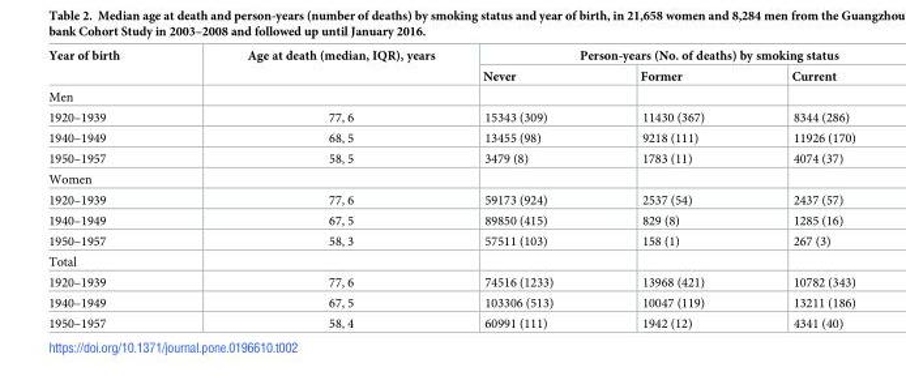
<table><thead><tr><td rowspan="2">Year of birth</td><td rowspan="2">Age at death (median, IQR), years</td><td colspan="3">Person-years (No. of deaths) by smoking status</td></tr><tr><td>Never</td><td>Former</td><td>Current</td></tr></thead><tbody><tr><td colspan="5">Men</td></tr><tr><td>1920–1939</td><td>77, 6</td><td>15343 (309)</td><td>11430 (367)</td><td>8344 (286)</td></tr><tr><td>1940–1949</td><td>68, 5</td><td>13455 (98)</td><td>9218 (111)</td><td>11926 (170)</td></tr><tr><td>1950–1957</td><td>58, 5</td><td>3479 (8)</td><td>1783 (11)</td><td>4074 (37)</td></tr><tr><td colspan="5">Women</td></tr><tr><td>1920–1939</td><td>77, 6</td><td>59173 (924)</td><td>2537 (54)</td><td>2437 (57)</td></tr><tr><td>1940–1949</td><td>67, 5</td><td>89850 (415)</td><td>829 (8)</td><td>1285 (16)</td></tr><tr><td>1950–1957</td><td>58, 3</td><td>57511 (103)</td><td>158 (1)</td><td>267 (3)</td></tr><tr><td colspan="5">Total</td></tr><tr><td>1920–1939</td><td>77, 6</td><td>74516 (1233)</td><td>13968 (421)</td><td>10782 (343)</td></tr><tr><td>1940–1949</td><td>67, 5</td><td>103306 (513)</td><td>10047 (119)</td><td>13211 (186)</td></tr><tr><td>1950–1957</td><td>58, 4</td><td>60991 (111)</td><td>1942 (12)</td><td>4341 (40)</td></tr></tbody></table>